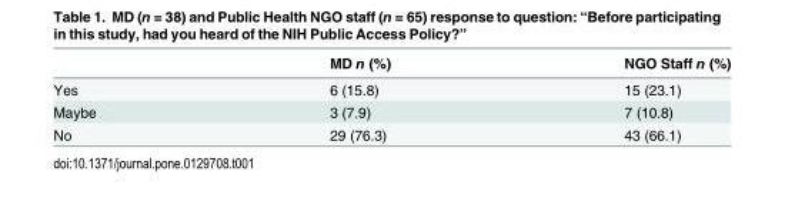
<table><thead><tr><td></td><td>MD n (%)</td><td>NGO Staff n (%)</td></tr></thead><tbody><tr><td>Yes</td><td>6 (15.8)</td><td>15 (23.1)</td></tr><tr><td>Maybe</td><td>3 (7.9)</td><td>7 (10.8)</td></tr><tr><td>No</td><td>29 (76.3)</td><td>43 (66.1)</td></tr></tbody></table>